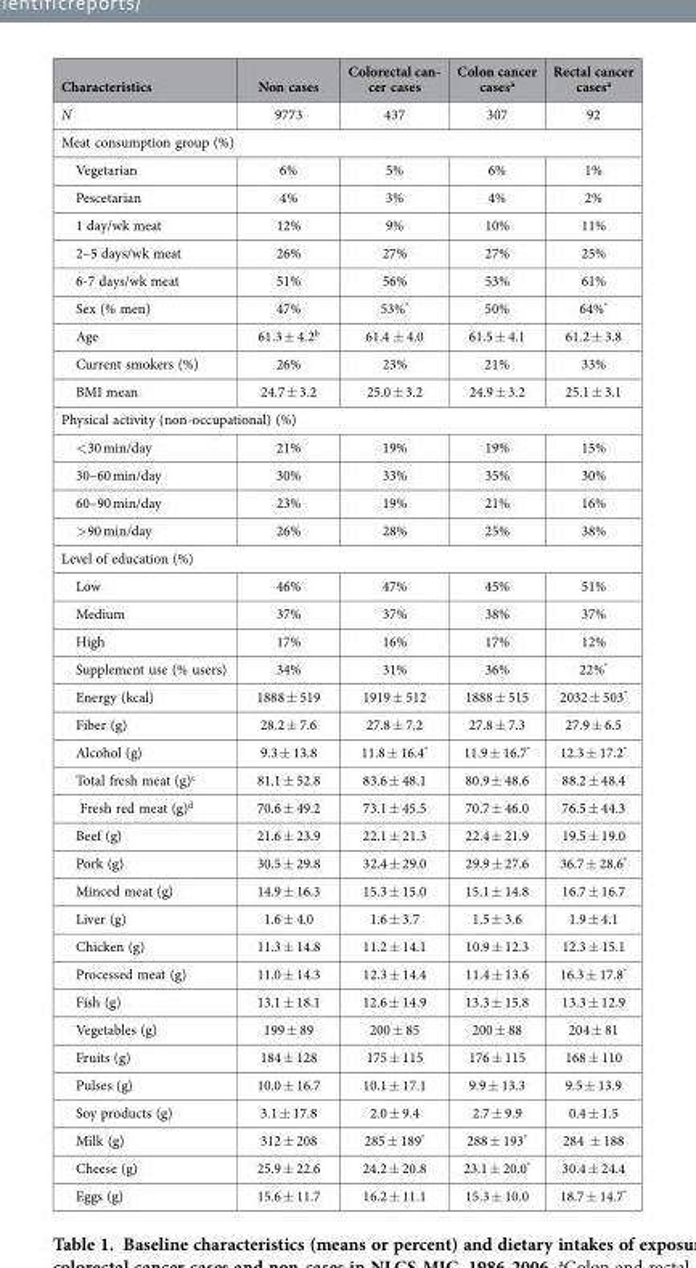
<table><thead><tr><td>Characteristics</td><td>Non cases</td><td>Colorectal can- cer cases</td><td>Colon cancer cases<sup>a</sup></td><td>Rectal cancer cases<sup>a</sup></td></tr></thead><tbody><tr><td>N</td><td>9773</td><td>437</td><td>307</td><td>92</td></tr><tr><td colspan="5">Meat consumption group (%)</td></tr><tr><td>Vegetarian</td><td>6%</td><td>5%</td><td>6%</td><td>1%</td></tr><tr><td>Pescetarian</td><td>4%</td><td>3%</td><td>4%</td><td>2%</td></tr><tr><td>1 day/wk meat</td><td>12%</td><td>9%</td><td>10%</td><td>11%</td></tr><tr><td>2–5 days/wk meat</td><td>26%</td><td>27%</td><td>27%</td><td>25%</td></tr><tr><td>6-7 days/wk meat</td><td>51%</td><td>56%</td><td>53%</td><td>61%</td></tr><tr><td>Sex (% men)</td><td>47%</td><td>53%*</td><td>50%</td><td>64%*</td></tr><tr><td>Age</td><td>61.3 ± 4.2<sup>b</sup></td><td>61.4 ± 4.0</td><td>61.5 ± 4.1</td><td>61.2 ± 3.8</td></tr><tr><td>Current smokers (%)</td><td>26%</td><td>23%</td><td>21%</td><td>33%</td></tr><tr><td>BMI mean</td><td>24.7 ± 3.2</td><td>25.0 ± 3.2</td><td>24.9 ± 3.2</td><td>25.1 ± 3.1</td></tr><tr><td colspan="5">Physical activity (non-occupational) (%)</td></tr><tr><td>&lt; 30 min/day</td><td>21%</td><td>19%</td><td>19%</td><td>15%</td></tr><tr><td>30–60 min/day</td><td>30%</td><td>33%</td><td>35%</td><td>30%</td></tr><tr><td>60–90 min/day</td><td>23%</td><td>19%</td><td>21%</td><td>16%</td></tr><tr><td>&gt; 90 min/day</td><td>26%</td><td>28%</td><td>25%</td><td>38%</td></tr><tr><td colspan="5">Level of education (%)</td></tr><tr><td>Low</td><td>46%</td><td>47%</td><td>45%</td><td>51%</td></tr><tr><td>Medium</td><td>37%</td><td>37%</td><td>38%</td><td>37%</td></tr><tr><td>High</td><td>17%</td><td>16%</td><td>17%</td><td>12%</td></tr><tr><td>Supplement use (% users)</td><td>34%</td><td>31%</td><td>36%</td><td>22%*</td></tr><tr><td>Energy (kcal)</td><td>1888 ± 519</td><td>1919 ± 512</td><td>1888 ± 515</td><td>2032 ± 503*</td></tr><tr><td>Fiber (g)</td><td>28.2 ± 7.6</td><td>27.8 ± 7.2</td><td>27.8 ± 7.3</td><td>27.9 ± 6.5</td></tr><tr><td>Alcohol (g)</td><td>9.3 ± 13.8</td><td>11.8 ± 16.4*</td><td>11.9 ± 16.7*</td><td>12.3 ± 17.2*</td></tr><tr><td>Total fresh meat (g)<sup>c</sup></td><td>81.1 ± 52.8</td><td>83.6 ± 48.1</td><td>80.9 ± 48.6</td><td>88.2 ± 48.4</td></tr><tr><td>Fresh red meat (g)<sup>d</sup></td><td>70.6 ± 49.2</td><td>73.1 ± 45.5</td><td>70.7 ± 46.0</td><td>76.5 ± 44.3</td></tr><tr><td>Beef (g)</td><td>21.6 ± 23.9</td><td>22.1 ± 21.3</td><td>22.4 ± 21.9</td><td>19.5 ± 19.0</td></tr><tr><td>Pork (g)</td><td>30.5 ± 29.8</td><td>32.4 ± 29.0</td><td>29.9 ± 27.6</td><td>36.7 ± 28.6*</td></tr><tr><td>Minced meat (g)</td><td>14.9 ± 16.3</td><td>15.3 ± 15.0</td><td>15.1 ± 14.8</td><td>16.7 ± 16.7</td></tr><tr><td>Liver (g)</td><td>1.6 ± 4.0</td><td>1.6 ± 3.7</td><td>1.5 ± 3.6</td><td>1.9 ± 4.1</td></tr><tr><td>Chicken (g)</td><td>11.3 ± 14.8</td><td>11.2 ± 14.1</td><td>10.9 ± 12.3</td><td>12.3 ± 15.1</td></tr><tr><td>Processed meat (g)</td><td>11.0 ± 14.3</td><td>12.3 ± 14.4</td><td>11.4 ± 13.6</td><td>16.3 ± 17.8*</td></tr><tr><td>Fish (g)</td><td>13.1 ± 18.1</td><td>12.6 ± 14.9</td><td>13.3 ± 15.8</td><td>13.3 ± 12.9</td></tr><tr><td>Vegetables (g)</td><td>199 ± 89</td><td>200 ± 85</td><td>200 ± 88</td><td>204 ± 81</td></tr><tr><td>Fruits (g)</td><td>184 ± 128</td><td>175 ± 115</td><td>176 ± 115</td><td>168 ± 110</td></tr><tr><td>Pulses (g)</td><td>10.0 ± 16.7</td><td>10.1 ± 17.1</td><td>9.9 ± 13.3</td><td>9.5 ± 13.9</td></tr><tr><td>Soy products (g)</td><td>3.1 ± 17.8</td><td>2.0 ± 9.4</td><td>2.7 ± 9.9</td><td>0.4 ± 1.5</td></tr><tr><td>Milk (g)</td><td>312 ± 208</td><td>285 ± 189*</td><td>288 ± 193*</td><td>284 ± 188</td></tr><tr><td>Cheese (g)</td><td>25.9 ± 22.6</td><td>24.2 ± 20.8</td><td>23.1 ± 20.0*</td><td>30.4 ± 24.4</td></tr><tr><td>Eggs (g)</td><td>15.6 ± 11.7</td><td>16.2 ± 11.1</td><td>15.3 ± 10.0</td><td>18.7 ± 14.7*</td></tr></tbody></table>